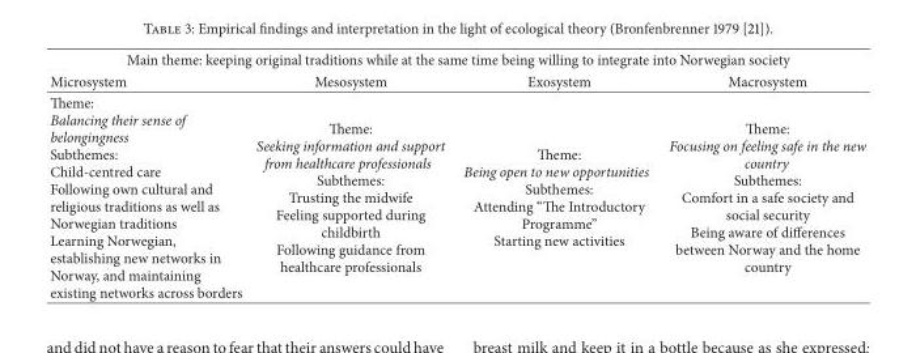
<table><thead><tr><td colspan="4">Main theme: keeping original traditions while at the same time being willing to integrate into Norwegian society</td></tr><tr><td>Microsystem</td><td>Mesosystem</td><td>Exosystem</td><td>Macrosystem</td></tr></thead><tbody><tr><td>Theme: Balancing their sense of belongingness Subthemes: Child-centred care Following own cultural and religious traditions as well as Norwegian traditions Learning Norwegian, establishing new networks in Norway, and maintaining existing networks across borders</td><td>Theme: Seeking information and support from healthcare professionals Subthemes: Trusting the midwife Feeling supported during childbirth Following guidance from healthcare professionals</td><td>Theme: Being open to new opportunities Subthemes: Attending “The Introductory Programme” Starting new activities</td><td>Theme: Focusing on feeling safe in the new country Subthemes: Comfort in a safe society and social security Being aware of differences between Norway and the home country</td></tr></tbody></table>